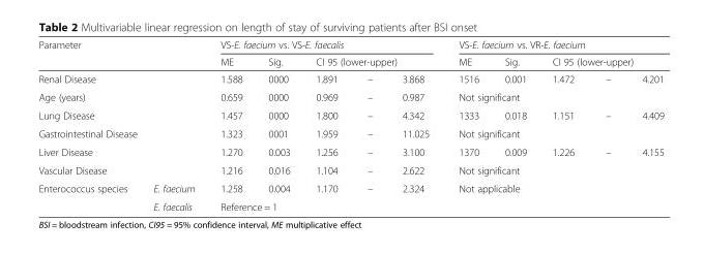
<table><thead><tr><td rowspan="2" colspan="2">Parameter</td><td colspan="5">VS-E. faecium vs. VS-E. faecalis</td><td colspan="5">VS-E. faecium vs. VR-E. faecium</td></tr><tr><td>ME</td><td>Sig.</td><td colspan="3">CI 95 (lower-upper)</td><td>ME</td><td>Sig.</td><td colspan="3">CI 95 (lower-upper)</td></tr></thead><tbody><tr><td colspan="2">Renal Disease</td><td>1.588</td><td>0000</td><td>1.891</td><td>–</td><td>3.868</td><td>1516</td><td>0.001</td><td>1.472</td><td>–</td><td>4.201</td></tr><tr><td colspan="2">Age (years)</td><td>0.659</td><td>0000</td><td>0.969</td><td>–</td><td>0.987</td><td colspan="5">Not significant</td></tr><tr><td colspan="2">Lung Disease</td><td>1.457</td><td>0000</td><td>1.800</td><td>–</td><td>4.342</td><td>1333</td><td>0.018</td><td>1.151</td><td>–</td><td>4.409</td></tr><tr><td colspan="2">Gastrointestinal Disease</td><td>1.323</td><td>0001</td><td>1.959</td><td>–</td><td>11.025</td><td colspan="5">Not significant</td></tr><tr><td colspan="2">Liver Disease</td><td>1.270</td><td>0.003</td><td>1.256</td><td>–</td><td>3.100</td><td>1370</td><td>0.009</td><td>1.226</td><td>–</td><td>4.155</td></tr><tr><td colspan="2">Vascular Disease</td><td>1.216</td><td>0.016</td><td>1.104</td><td>–</td><td>2.622</td><td colspan="5">Not significant</td></tr><tr><td rowspan="2">Enterococcus species</td><td>E. faecium</td><td>1.258</td><td>0.004</td><td>1.170</td><td>–</td><td>2.324</td><td rowspan="2" colspan="5">Not applicable</td></tr><tr><td>E. faecalis</td><td colspan="5">Reference = 1</td></tr></tbody></table>